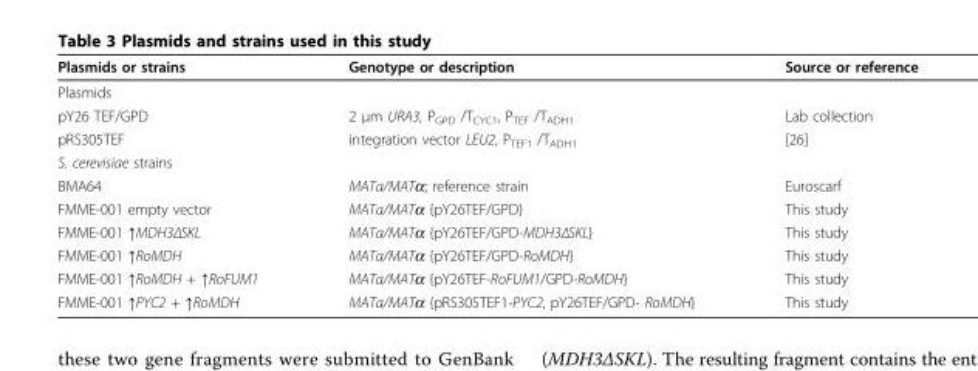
<table><thead><tr><td>Plasmids or strains</td><td>Genotype or description</td><td>Source or reference</td></tr></thead><tbody><tr><td colspan="3">Plasmids</td></tr><tr><td>pY26 TEF/GPD</td><td>2 μm URA3, P<sub>GPD</sub> /T<sub>CYC1</sub>, P<sub>TEF</sub> /T<sub>ADH1</sub></td><td>Lab collection</td></tr><tr><td>pRS305TEF</td><td>integration vector LEU2, P<sub>TEF1</sub> /T<sub>ADH1</sub></td><td>[26]</td></tr><tr><td colspan="3">S. cerevisiae strains</td></tr><tr><td>BMA64</td><td>MATa/MATα; reference strain</td><td>Euroscarf</td></tr><tr><td>FMME-001 empty vector</td><td>MATa/MATα {pY26TEF/GPD}</td><td>This study</td></tr><tr><td>FMME-001 ↑MDH3ΔSKL</td><td>MATa/MATα {pY26TEF/GPD-MDH3ΔSKL}</td><td>This study</td></tr><tr><td>FMME-001 ↑RoMDH</td><td>MATa/MATα {pY26TEF/GPD-RoMDH}</td><td>This study</td></tr><tr><td>FMME-001 ↑RoMDH + ↑RoFUM1</td><td>MATa/MATα {pY26TEF-RoFUM1/GPD-RoMDH}</td><td>This study</td></tr><tr><td>FMME-001 ↑PYC2 + ↑RoMDH</td><td>MATa/MATα {pRS305TEF1-PYC2, pY26TEF/GPD- RoMDH}</td><td>This study</td></tr></tbody></table>